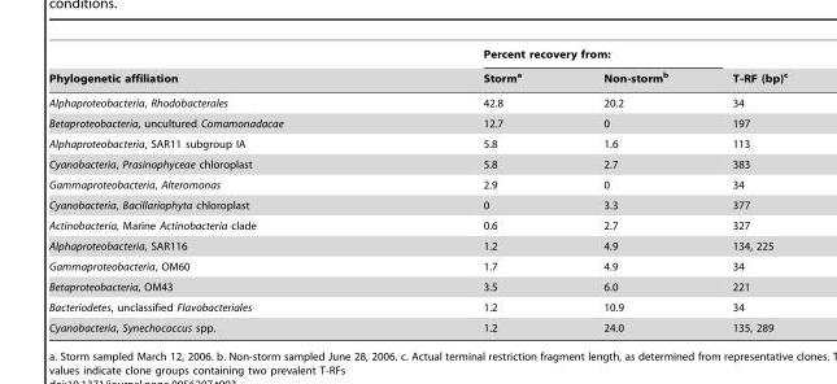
<table><thead><tr><td rowspan="2">Phylogenetic affiliation</td><td colspan="2">Percent recovery from:</td><td rowspan="2">T-RF (bp)<sup>c</sup></td></tr><tr><td>Storm<sup>a</sup></td><td>Non-storm<sup>b</sup></td></tr></thead><tbody><tr><td>Alphaproteobacteria, Rhodobacterales</td><td>42.8</td><td>20.2</td><td>34</td></tr><tr><td>Betaproteobacteria, uncultured Comamonadacae</td><td>12.7</td><td>0</td><td>197</td></tr><tr><td>Alphaproteobacteria, SAR11 subgroup IA</td><td>5.8</td><td>1.6</td><td>113</td></tr><tr><td>Cyanobacteria, Prasinophyceae chloroplast</td><td>5.8</td><td>2.7</td><td>383</td></tr><tr><td>Gammaproteobacteria, Alteromonas</td><td>2.9</td><td>0</td><td>34</td></tr><tr><td>Cyanobacteria, Bacillariophyta chloroplast</td><td>0</td><td>3.3</td><td>377</td></tr><tr><td>Actinobacteria, Marine Actinobacteria clade</td><td>0.6</td><td>2.7</td><td>327</td></tr><tr><td>Alphaproteobacteria, SAR116</td><td>1.2</td><td>4.9</td><td>134, 225</td></tr><tr><td>Gammaproteobacteria, OM60</td><td>1.7</td><td>4.9</td><td>34</td></tr><tr><td>Betaproteobacteria, OM43</td><td>3.5</td><td>6.0</td><td>221</td></tr><tr><td>Bacteriodetes, unclassified Flavobacteriales</td><td>1.2</td><td>10.9</td><td>34</td></tr><tr><td>Cyanobacteria, Synechococcus spp.</td><td>1.2</td><td>24.0</td><td>135, 289</td></tr></tbody></table>